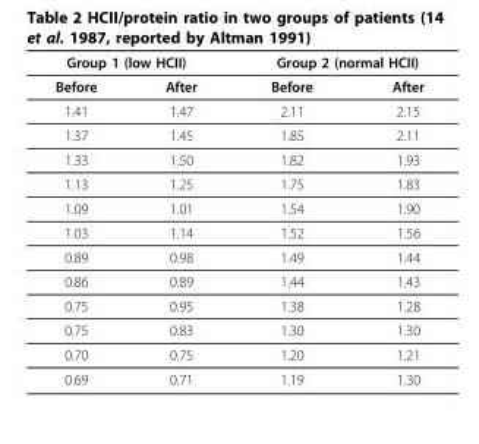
<table><thead><tr><td colspan="2">Group 1 (low HCII)</td><td colspan="2">Group 2 (normal HCII)</td></tr><tr><td>Before</td><td>After</td><td>Before</td><td>After</td></tr></thead><tbody><tr><td>1.41</td><td>1.47</td><td>2.11</td><td>2.15</td></tr><tr><td>1.37</td><td>1.45</td><td>1.85</td><td>2.11</td></tr><tr><td>1.33</td><td>1.50</td><td>1.82</td><td>1.93</td></tr><tr><td>1.13</td><td>1.25</td><td>1.75</td><td>1.83</td></tr><tr><td>1.09</td><td>1.01</td><td>1.54</td><td>1.90</td></tr><tr><td>1.03</td><td>1.14</td><td>1.52</td><td>1.56</td></tr><tr><td>0.89</td><td>0.98</td><td>1.49</td><td>1.44</td></tr><tr><td>0.86</td><td>0.89</td><td>1.44</td><td>1.43</td></tr><tr><td>0.75</td><td>0.95</td><td>1.38</td><td>1.28</td></tr><tr><td>0.75</td><td>0.83</td><td>1.30</td><td>1.30</td></tr><tr><td>0.70</td><td>0.75</td><td>1.20</td><td>1.21</td></tr><tr><td>0.69</td><td>0.71</td><td>1.19</td><td>1.30</td></tr></tbody></table>